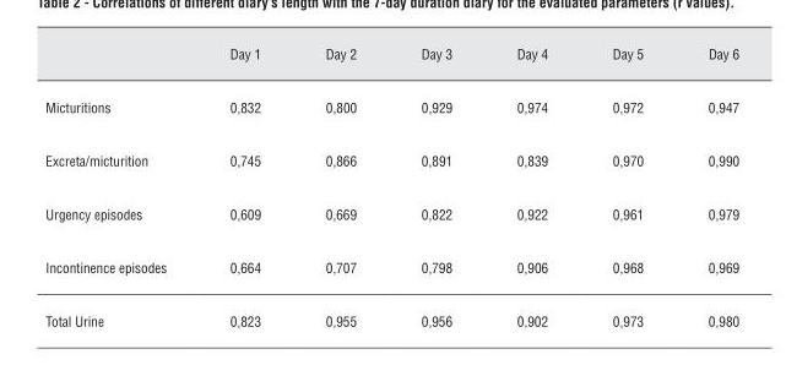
<table><thead><tr><td></td><td>Day 1</td><td>Day 2</td><td>Day 3</td><td>Day 4</td><td>Day 5</td><td>Day 6</td></tr></thead><tbody><tr><td>Micturitions</td><td>0,832</td><td>0,800</td><td>0,929</td><td>0,974</td><td>0,972</td><td>0,947</td></tr><tr><td>Excreta/micturition</td><td>0,745</td><td>0,866</td><td>0,891</td><td>0,839</td><td>0,970</td><td>0,990</td></tr><tr><td>Urgency episodes</td><td>0,609</td><td>0,669</td><td>0,822</td><td>0,922</td><td>0,961</td><td>0,979</td></tr><tr><td>Incontinence episodes</td><td>0,664</td><td>0,707</td><td>0,798</td><td>0,906</td><td>0,968</td><td>0,969</td></tr><tr><td>Total Urine</td><td>0,823</td><td>0,955</td><td>0,956</td><td>0,902</td><td>0,973</td><td>0,980</td></tr></tbody></table>